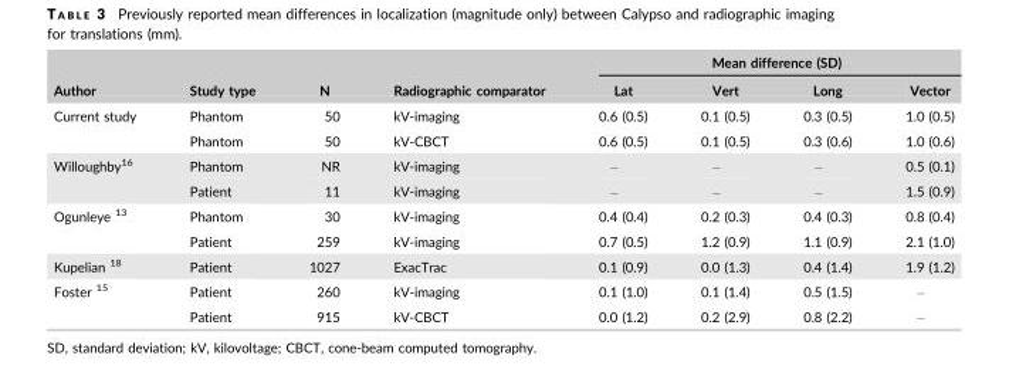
<table><thead><tr><td rowspan="2">Author</td><td rowspan="2">Study type</td><td rowspan="2">N</td><td rowspan="2">Radiographic comparator</td><td colspan="4">Mean difference (SD)</td></tr><tr><td>Lat</td><td>Vert</td><td>Long</td><td>Vector</td></tr></thead><tbody><tr><td rowspan="2">Current study</td><td>Phantom</td><td>50</td><td>kV-imaging</td><td>0.6 (0.5)</td><td>0.1 (0.5)</td><td>0.3 (0.5)</td><td>1.0 (0.5)</td></tr><tr><td>Phantom</td><td>50</td><td>kV-CBCT</td><td>0.6 (0.5)</td><td>0.1 (0.5)</td><td>0.3 (0.6)</td><td>1.0 (0.6)</td></tr><tr><td rowspan="2">Willoughby<sup>16</sup></td><td>Phantom</td><td>NR</td><td>kV-imaging</td><td>–</td><td>–</td><td>–</td><td>0.5 (0.1)</td></tr><tr><td>Patient</td><td>11</td><td>kV-imaging</td><td>–</td><td>–</td><td>–</td><td>1.5 (0.9)</td></tr><tr><td rowspan="2">Ogunleye 13</td><td>Phantom</td><td>30</td><td>kV-imaging</td><td>0.4 (0.4)</td><td>0.2 (0.3)</td><td>0.4 (0.3)</td><td>0.8 (0.4)</td></tr><tr><td>Patient</td><td>259</td><td>kV-imaging</td><td>0.7 (0.5)</td><td>1.2 (0.9)</td><td>1.1 (0.9)</td><td>2.1 (1.0)</td></tr><tr><td>Kupelian 18</td><td>Patient</td><td>1027</td><td>ExacTrac</td><td>0.1 (0.9)</td><td>0.0 (1.3)</td><td>0.4 (1.4)</td><td>1.9 (1.2)</td></tr><tr><td rowspan="2">Foster 15</td><td>Patient</td><td>260</td><td>kV-imaging</td><td>0.1 (1.0)</td><td>0.1 (1.4)</td><td>0.5 (1.5)</td><td>–</td></tr><tr><td>Patient</td><td>915</td><td>kV-CBCT</td><td>0.0 (1.2)</td><td>0.2 (2.9)</td><td>0.8 (2.2)</td><td>–</td></tr></tbody></table>